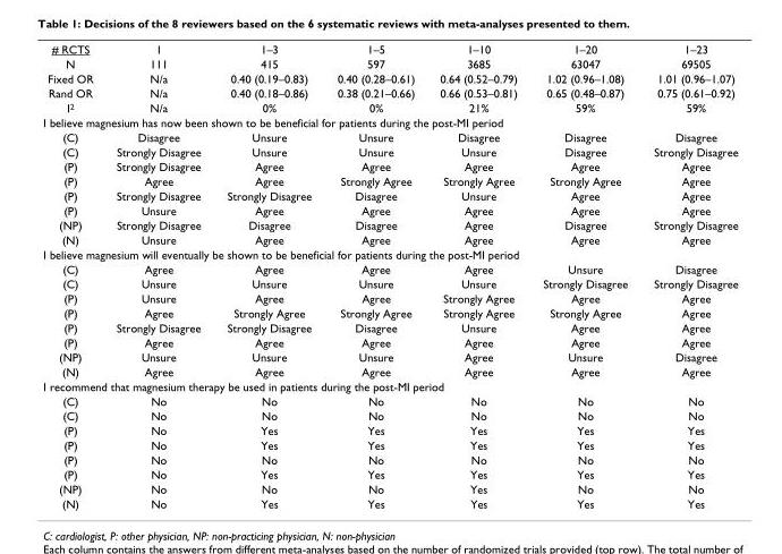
<table><tbody><tr><td># RCTS</td><td>1</td><td>1–3</td><td>1–5</td><td>1–10</td><td>1–20</td><td>1–23</td></tr><tr><td>N</td><td>111</td><td>415</td><td>597</td><td>3685</td><td>63047</td><td>69505</td></tr><tr><td>Fixed OR</td><td>N/a</td><td>0.40 (0.19–0.83)</td><td>0.40 (0.28–0.61)</td><td>0.64 (0.52–0.79)</td><td>1.02 (0.96–1.08)</td><td>1.01 (0.96–1.07)</td></tr><tr><td>Rand OR</td><td>N/a</td><td>0.40 (0.18–0.86)</td><td>0.38 (0.21–0.66)</td><td>0.66 (0.53–0.81)</td><td>0.65 (0.48–0.87)</td><td>0.75 (0.61–0.92)</td></tr><tr><td>I<sup>2</sup></td><td>N/a</td><td>0%</td><td>0%</td><td>21%</td><td>59%</td><td>59%</td></tr><tr><td colspan="7">I believe magnesium has now been shown to be beneficial for patients during the post-MI period</td></tr><tr><td>(C)</td><td>Disagree</td><td>Unsure</td><td>Unsure</td><td>Disagree</td><td>Disagree</td><td>Disagree</td></tr><tr><td>(C)</td><td>Strongly Disagree</td><td>Unsure</td><td>Unsure</td><td>Unsure</td><td>Disagree</td><td>Strongly Disagree</td></tr><tr><td>(P)</td><td>Strongly Disagree</td><td>Agree</td><td>Agree</td><td>Agree</td><td>Agree</td><td>Agree</td></tr><tr><td>(P)</td><td>Agree</td><td>Agree</td><td>Strongly Agree</td><td>Strongly Agree</td><td>Strongly Agree</td><td>Agree</td></tr><tr><td>(P)</td><td>Strongly Disagree</td><td>Strongly Disagree</td><td>Disagree</td><td>Unsure</td><td>Agree</td><td>Agree</td></tr><tr><td>(P)</td><td>Unsure</td><td>Agree</td><td>Agree</td><td>Agree</td><td>Agree</td><td>Agree</td></tr><tr><td>(NP)</td><td>Strongly Disagree</td><td>Disagree</td><td>Disagree</td><td>Agree</td><td>Disagree</td><td>Strongly Disagree</td></tr><tr><td>(N)</td><td>Unsure</td><td>Agree</td><td>Agree</td><td>Agree</td><td>Agree</td><td>Agree</td></tr><tr><td colspan="7">I believe magnesium will eventually be shown to be beneficial for patients during the post-MI period</td></tr><tr><td>(C)</td><td>Agree</td><td>Agree</td><td>Agree</td><td>Agree</td><td>Unsure</td><td>Disagree</td></tr><tr><td>(C)</td><td>Unsure</td><td>Unsure</td><td>Unsure</td><td>Unsure</td><td>Strongly Disagree</td><td>Strongly Disagree</td></tr><tr><td>(P)</td><td>Unsure</td><td>Agree</td><td>Agree</td><td>Strongly Agree</td><td>Agree</td><td>Agree</td></tr><tr><td>(P)</td><td>Agree</td><td>Strongly Agree</td><td>Strongly Agree</td><td>Strongly Agree</td><td>Strongly Agree</td><td>Agree</td></tr><tr><td>(P)</td><td>Strongly Disagree</td><td>Strongly Disagree</td><td>Disagree</td><td>Unsure</td><td>Agree</td><td>Agree</td></tr><tr><td>(P)</td><td>Agree</td><td>Agree</td><td>Agree</td><td>Agree</td><td>Agree</td><td>Agree</td></tr><tr><td>(NP)</td><td>Unsure</td><td>Unsure</td><td>Unsure</td><td>Agree</td><td>Unsure</td><td>Disagree</td></tr><tr><td>(N)</td><td>Agree</td><td>Agree</td><td>Agree</td><td>Agree</td><td>Agree</td><td>Agree</td></tr><tr><td colspan="7">I recommend that magnesium therapy be used in patients during the post-MI period</td></tr><tr><td>(C)</td><td>No</td><td>No</td><td>No</td><td>No</td><td>No</td><td>No</td></tr><tr><td>(C)</td><td>No</td><td>No</td><td>No</td><td>No</td><td>No</td><td>No</td></tr><tr><td>(P)</td><td>No</td><td>Yes</td><td>Yes</td><td>Yes</td><td>Yes</td><td>Yes</td></tr><tr><td>(P)</td><td>No</td><td>Yes</td><td>Yes</td><td>Yes</td><td>Yes</td><td>Yes</td></tr><tr><td>(P)</td><td>No</td><td>No</td><td>No</td><td>No</td><td>No</td><td>No</td></tr><tr><td>(P)</td><td>No</td><td>Yes</td><td>Yes</td><td>Yes</td><td>Yes</td><td>Yes</td></tr><tr><td>(NP)</td><td>No</td><td>No</td><td>No</td><td>Yes</td><td>No</td><td>No</td></tr><tr><td>(N)</td><td>No</td><td>Yes</td><td>Yes</td><td>Yes</td><td>Yes</td><td>Yes</td></tr></tbody></table>